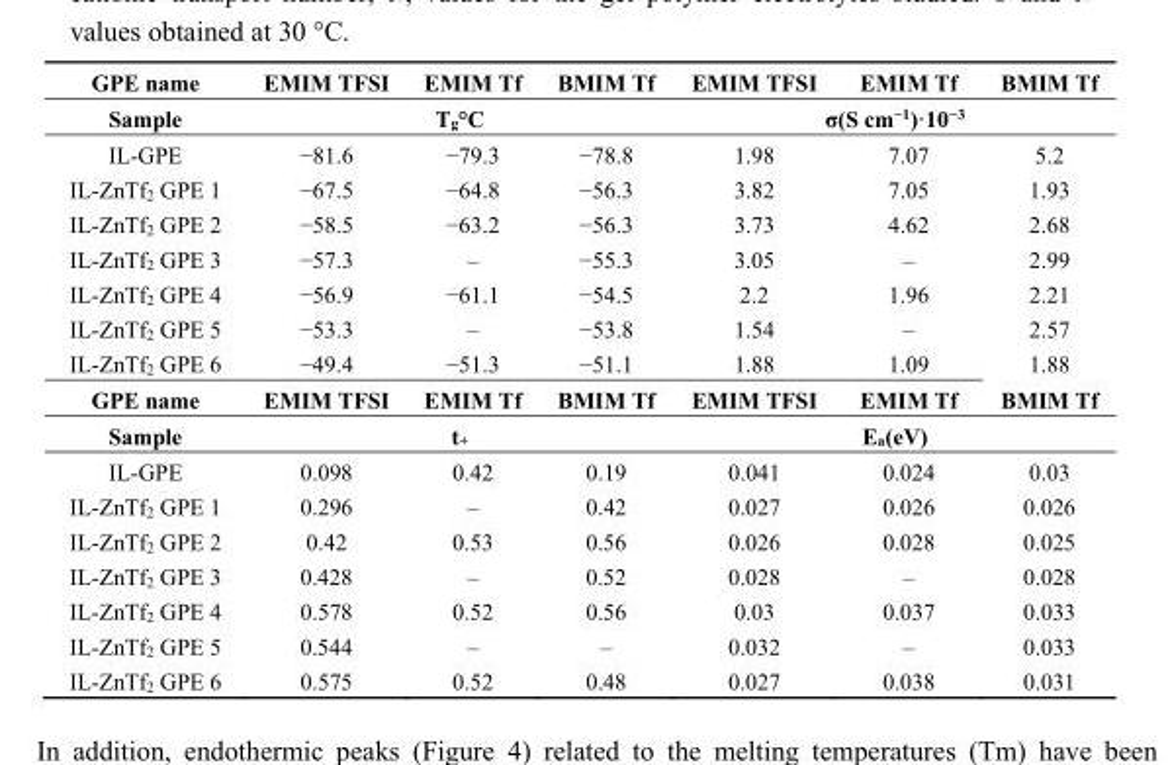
<table><tbody><tr><td>GPE name</td><td>EMIM TFSI</td><td>EMIM Tf</td><td>BMIM Tf</td><td>EMIM TFSI</td><td>EMIM Tf</td><td>BMIM Tf</td></tr><tr><td>Sample</td><td colspan="3">T<sub>g</sub>°C</td><td colspan="3">σ(S cm<sup>−1</sup>)·10<sup>−3</sup></td></tr><tr><td>IL-GPE</td><td>−81.6</td><td>−79.3</td><td>−78.8</td><td>1.98</td><td>7.07</td><td>5.2</td></tr><tr><td>IL-ZnTf<sub>2</sub> GPE 1</td><td>−67.5</td><td>−64.8</td><td>−56.3</td><td>3.82</td><td>7.05</td><td>1.93</td></tr><tr><td>IL-ZnTf<sub>2</sub> GPE 2</td><td>−58.5</td><td>−63.2</td><td>−56.3</td><td>3.73</td><td>4.62</td><td>2.68</td></tr><tr><td>IL-ZnTf<sub>2</sub> GPE 3</td><td>−57.3</td><td>–</td><td>−55.3</td><td>3.05</td><td>–</td><td>2.99</td></tr><tr><td>IL-ZnTf<sub>2</sub> GPE 4</td><td>−56.9</td><td>−61.1</td><td>−54.5</td><td>2.2</td><td>1.96</td><td>2.21</td></tr><tr><td>IL-ZnTf<sub>2</sub> GPE 5</td><td>−53.3</td><td>–</td><td>−53.8</td><td>1.54</td><td>–</td><td>2.57</td></tr><tr><td>IL-ZnTf<sub>2</sub> GPE 6</td><td>−49.4</td><td>−51.3</td><td>−51.1</td><td>1.88</td><td>1.09</td><td>1.88</td></tr><tr><td>GPE name</td><td>EMIM TFSI</td><td>EMIM Tf</td><td>BMIM Tf</td><td>EMIM TFSI</td><td>EMIM Tf</td><td>BMIM Tf</td></tr><tr><td>Sample</td><td colspan="3">t<sub>+</sub></td><td colspan="3">E<sub>a</sub>(eV)</td></tr><tr><td>IL-GPE</td><td>0.098</td><td>0.42</td><td>0.19</td><td>0.041</td><td>0.024</td><td>0.03</td></tr><tr><td>IL-ZnTf<sub>2</sub> GPE 1</td><td>0.296</td><td>–</td><td>0.42</td><td>0.027</td><td>0.026</td><td>0.026</td></tr><tr><td>IL-ZnTf<sub>2</sub> GPE 2</td><td>0.42</td><td>0.53</td><td>0.56</td><td>0.026</td><td>0.028</td><td>0.025</td></tr><tr><td>IL-ZnTf<sub>2</sub> GPE 3</td><td>0.428</td><td>–</td><td>0.52</td><td>0.028</td><td>–</td><td>0.028</td></tr><tr><td>IL-ZnTf<sub>2</sub> GPE 4</td><td>0.578</td><td>0.52</td><td>0.56</td><td>0.03</td><td>0.037</td><td>0.033</td></tr><tr><td>IL-ZnTf<sub>2</sub> GPE 5</td><td>0.544</td><td>–</td><td>–</td><td>0.032</td><td>–</td><td>0.033</td></tr><tr><td>IL-ZnTf<sub>2</sub> GPE 6</td><td>0.575</td><td>0.52</td><td>0.48</td><td>0.027</td><td>0.038</td><td>0.031</td></tr></tbody></table>